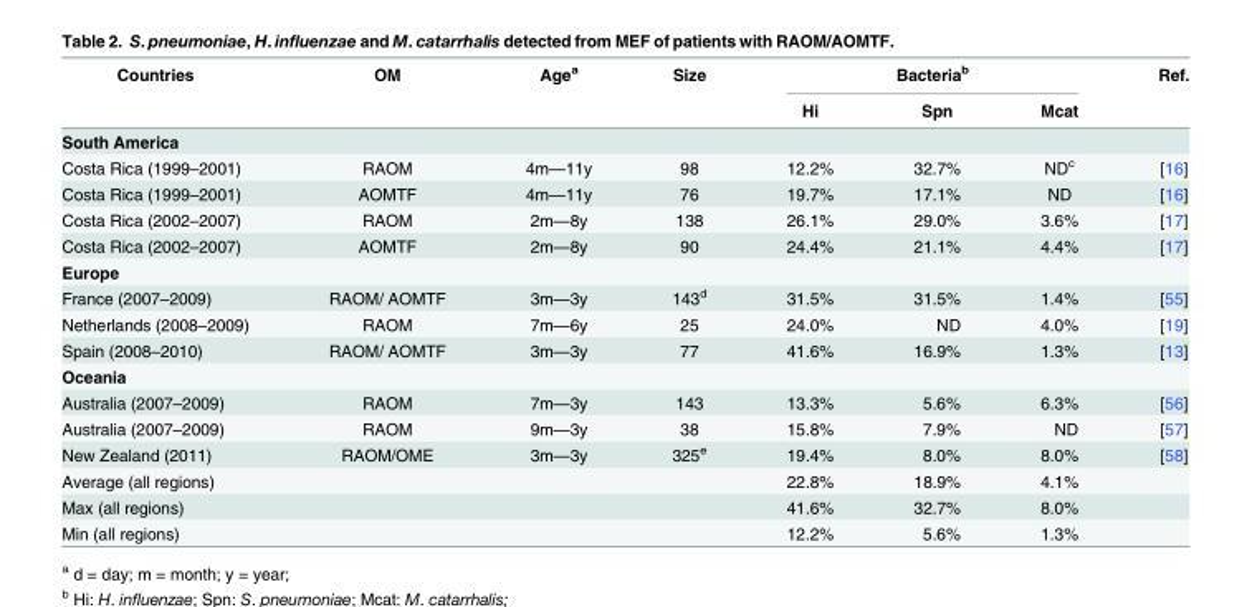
<table><thead><tr><td rowspan="2">Countries</td><td rowspan="2">OM</td><td rowspan="2">Age<sup>a</sup></td><td rowspan="2">Size</td><td colspan="3">Bacteria<sup>b</sup></td><td rowspan="2">Ref.</td></tr><tr><td>Hi</td><td>Spn</td><td>Mcat</td></tr></thead><tbody><tr><td colspan="8">South America</td></tr><tr><td>Costa Rica (1999–2001)</td><td>RAOM</td><td>4m—11y</td><td>98</td><td>12.2%</td><td>32.7%</td><td>ND<sup>c</sup></td><td>[16]</td></tr><tr><td>Costa Rica (1999–2001)</td><td>AOMTF</td><td>4m—11y</td><td>76</td><td>19.7%</td><td>17.1%</td><td>ND</td><td>[16]</td></tr><tr><td>Costa Rica (2002–2007)</td><td>RAOM</td><td>2m—8y</td><td>138</td><td>26.1%</td><td>29.0%</td><td>3.6%</td><td>[17]</td></tr><tr><td>Costa Rica (2002–2007)</td><td>AOMTF</td><td>2m—8y</td><td>90</td><td>24.4%</td><td>21.1%</td><td>4.4%</td><td>[17]</td></tr><tr><td colspan="8">Europe</td></tr><tr><td>France (2007–2009)</td><td>RAOM/ AOMTF</td><td>3m—3y</td><td>143<sup>d</sup></td><td>31.5%</td><td>31.5%</td><td>1.4%</td><td>[55]</td></tr><tr><td>Netherlands (2008–2009)</td><td>RAOM</td><td>7m—6y</td><td>25</td><td>24.0%</td><td>ND</td><td>4.0%</td><td>[19]</td></tr><tr><td>Spain (2008–2010)</td><td>RAOM/ AOMTF</td><td>3m—3y</td><td>77</td><td>41.6%</td><td>16.9%</td><td>1.3%</td><td>[13]</td></tr><tr><td colspan="8">Oceania</td></tr><tr><td>Australia (2007–2009)</td><td>RAOM</td><td>7m—3y</td><td>143</td><td>13.3%</td><td>5.6%</td><td>6.3%</td><td>[56]</td></tr><tr><td>Australia (2007–2009)</td><td>RAOM</td><td>9m—3y</td><td>38</td><td>15.8%</td><td>7.9%</td><td>ND</td><td>[57]</td></tr><tr><td>New Zealand (2011)</td><td>RAOM/OME</td><td>3m—3y</td><td>325<sup>e</sup></td><td>19.4%</td><td>8.0%</td><td>8.0%</td><td>[58]</td></tr><tr><td>Average (all regions)</td><td></td><td></td><td></td><td>22.8%</td><td>18.9%</td><td>4.1%</td><td></td></tr><tr><td>Max (all regions)</td><td></td><td></td><td></td><td>41.6%</td><td>32.7%</td><td>8.0%</td><td></td></tr><tr><td>Min (all regions)</td><td></td><td></td><td></td><td>12.2%</td><td>5.6%</td><td>1.3%</td><td></td></tr></tbody></table>